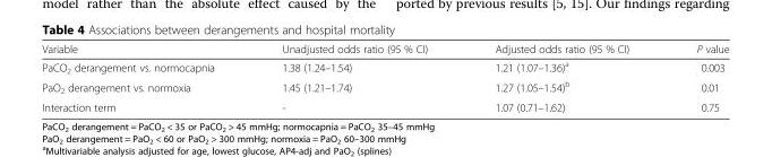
<table><thead><tr><td>Variable</td><td>Unadjusted odds ratio (95 % CI)</td><td>Adjusted odds ratio (95 % CI)</td><td>P value</td></tr></thead><tbody><tr><td>PaCO<sub>2</sub> derangement vs. normocapnia</td><td>1.38 (1.24–1.54)</td><td>1.21 (1.07–1.36)<sup>a</sup></td><td>0.003</td></tr><tr><td>PaO<sub>2</sub> derangement vs. normoxia</td><td>1.45 (1.21–1.74)</td><td>1.27 (1.05–1.54)<sup>b</sup></td><td>0.01</td></tr><tr><td>Interaction term</td><td>-</td><td>1.07 (0.71–1.62)</td><td>0.75</td></tr></tbody></table>